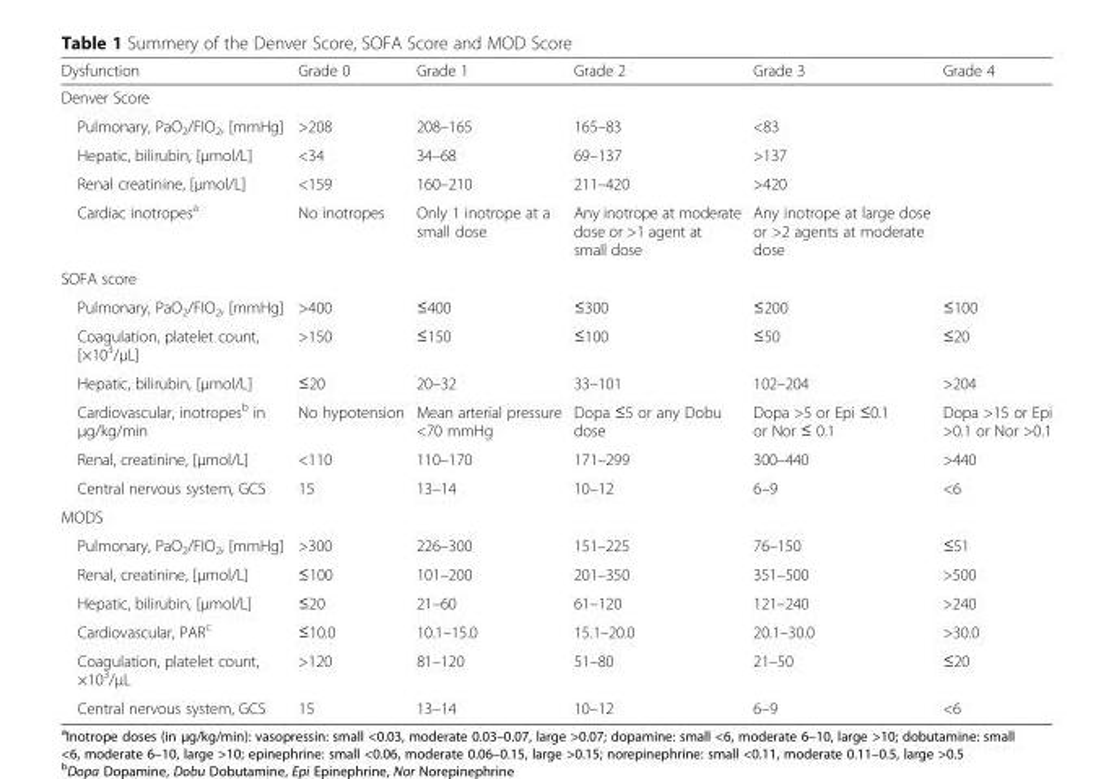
<table><thead><tr><td>Dysfunction</td><td>Grade 0</td><td>Grade 1</td><td>Grade 2</td><td>Grade 3</td><td>Grade 4</td></tr></thead><tbody><tr><td colspan="6">Denver Score</td></tr><tr><td>Pulmonary, PaO<sub>2</sub>/FIO<sub>2</sub>, [mmHg]</td><td>&gt;208</td><td>208–165</td><td>165–83</td><td>&lt;83</td><td></td></tr><tr><td>Hepatic, bilirubin, [μmol/L]</td><td>&lt;34</td><td>34–68</td><td>69–137</td><td>&gt;137</td><td></td></tr><tr><td>Renal creatinine, [μmol/L]</td><td>&lt;159</td><td>160–210</td><td>211–420</td><td>&gt;420</td><td></td></tr><tr><td>Cardiac inotropes<sup>a</sup></td><td>No inotropes</td><td>Only 1 inotrope at a small dose</td><td>Any inotrope at moderate dose or &gt;1 agent at small dose</td><td>Any inotrope at large dose or &gt;2 agents at moderate dose</td><td></td></tr><tr><td colspan="6">SOFA score</td></tr><tr><td>Pulmonary, PaO<sub>2</sub>/FIO<sub>2</sub>, [mmHg]</td><td>&gt;400</td><td>≤400</td><td>≤300</td><td>≤200</td><td>≤100</td></tr><tr><td>Coagulation, platelet count, [×10<sup>3</sup>/μL]</td><td>&gt;150</td><td>≤150</td><td>≤100</td><td>≤50</td><td>≤20</td></tr><tr><td>Hepatic, bilirubin, [μmol/L]</td><td>≤20</td><td>20–32</td><td>33–101</td><td>102–204</td><td>&gt;204</td></tr><tr><td>Cardiovascular, inotropes<sup>b</sup> in μg/kg/min</td><td>No hypotension</td><td>Mean arterial pressure &lt;70 mmHg</td><td>Dopa ≤5 or any Dobu dose</td><td>Dopa &gt;5 or Epi ≤0.1 or Nor ≤ 0.1</td><td>Dopa &gt;15 or Epi &gt;0.1 or Nor &gt;0.1</td></tr><tr><td>Renal, creatinine, [μmol/L]</td><td>&lt;110</td><td>110–170</td><td>171–299</td><td>300–440</td><td>&gt;440</td></tr><tr><td>Central nervous system, GCS</td><td>15</td><td>13–14</td><td>10–12</td><td>6–9</td><td>&lt;6</td></tr><tr><td colspan="6">MODS</td></tr><tr><td>Pulmonary, PaO<sub>2</sub>/FIO<sub>2</sub>, [mmHg]</td><td>&gt;300</td><td>226–300</td><td>151–225</td><td>76–150</td><td>≤51</td></tr><tr><td>Renal, creatinine, [μmol/L]</td><td>≤100</td><td>101–200</td><td>201–350</td><td>351–500</td><td>&gt;500</td></tr><tr><td>Hepatic, bilirubin, [μmol/L]</td><td>≤20</td><td>21–60</td><td>61–120</td><td>121–240</td><td>&gt;240</td></tr><tr><td>Cardiovascular, PAR<sup>c</sup></td><td>≤10.0</td><td>10.1–15.0</td><td>15.1–20.0</td><td>20.1–30.0</td><td>&gt;30.0</td></tr><tr><td>Coagulation, platelet count, ×10<sup>3</sup>/μL</td><td>&gt;120</td><td>81–120</td><td>51–80</td><td>21–50</td><td>≤20</td></tr><tr><td>Central nervous system, GCS</td><td>15</td><td>13–14</td><td>10–12</td><td>6–9</td><td>&lt;6</td></tr></tbody></table>